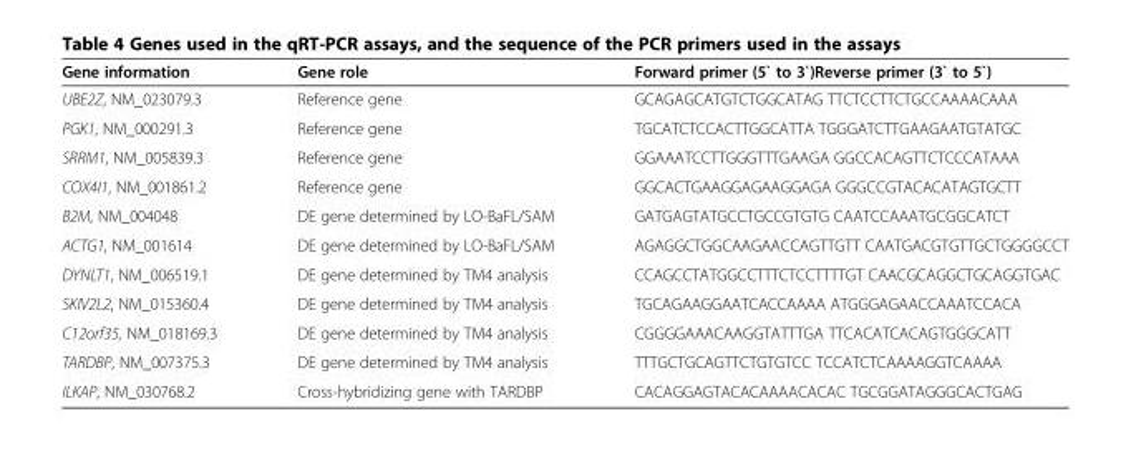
<table><thead><tr><td>Gene information</td><td>Gene role</td><td>Forward primer (5` to 3`)Reverse primer (3` to 5`)</td></tr></thead><tbody><tr><td>UBE2Z, NM_023079.3</td><td>Reference gene</td><td>GCAGAGCATGTCTGGCATAG TTCTCCTTCTGCCAAAACAAA</td></tr><tr><td>PGK1, NM_000291.3</td><td>Reference gene</td><td>TGCATCTCCACTTGGCATTA TGGGATCTTGAAGAATGTATGC</td></tr><tr><td>SRRM1, NM_005839.3</td><td>Reference gene</td><td>GGAAATCCTTGGGTTTGAAGA GGCCACAGTTCTCCCATAAA</td></tr><tr><td>COX4I1, NM_001861.2</td><td>Reference gene</td><td>GGCACTGAAGGAGAAGGAGA GGGCCGTACACATAGTGCTT</td></tr><tr><td>B2M, NM_004048</td><td>DE gene determined by LO-BaFL/SAM</td><td>GATGAGTATGCCTGCCGTGTG CAATCCAAATGCGGCATCT</td></tr><tr><td>ACTG1, NM_001614</td><td>DE gene determined by LO-BaFL/SAM</td><td>AGAGGCTGGCAAGAACCAGTTGTT CAATGACGTGTTGCTGGGGCCT</td></tr><tr><td>DYNLT1, NM_006519.1</td><td>DE gene determined by TM4 analysis</td><td>CCAGCCTATGGCCTTTCTCCTTTTGT CAACGCAGGCTGCAGGTGAC</td></tr><tr><td>SKIV2L2, NM_015360.4</td><td>DE gene determined by TM4 analysis</td><td>TGCAGAAGGAATCACCAAAA ATGGGAGAACCAAATCCACA</td></tr><tr><td>C12orf35, NM_018169.3</td><td>DE gene determined by TM4 analysis</td><td>CGGGGAAACAAGGTATTTGA TTCACATCACAGTGGGCATT</td></tr><tr><td>TARDBP, NM_007375.3</td><td>DE gene determined by TM4 analysis</td><td>TTTGCTGCAGTTCTGTGTCC TCCATCTCAAAAGGTCAAAA</td></tr><tr><td>ILKAP, NM_030768.2</td><td>Cross-hybridizing gene with TARDBP</td><td>CACAGGAGTACACAAAACACAC TGCGGATAGGGCACTGAG</td></tr></tbody></table>